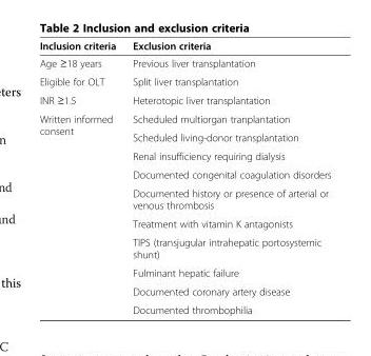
<table><thead><tr><td>Inclusion criteria</td><td>Exclusion criteria</td></tr></thead><tbody><tr><td>Age ≥18 years</td><td>Previous liver transplantation</td></tr><tr><td>Eligible for OLT</td><td>Split liver transplantation</td></tr><tr><td>INR ≥1.5</td><td>Heterotopic liver transplantation</td></tr><tr><td rowspan="10">Written informed consent</td><td>Scheduled multiorgan tranplantation</td></tr><tr><td>Scheduled living-donor transplantation</td></tr><tr><td>Renal insufficiency requiring dialysis</td></tr><tr><td>Documented congenital coagulation disorders</td></tr><tr><td>Documented history or presence of arterial or venous thrombosis</td></tr><tr><td>Treatment with vitamin K antagonists</td></tr><tr><td>TIPS (transjugular intrahepatic portosystemic shunt)</td></tr><tr><td>Fulminant hepatic failure</td></tr><tr><td>Documented coronary artery disease</td></tr><tr><td>Documented thrombophilia</td></tr></tbody></table>